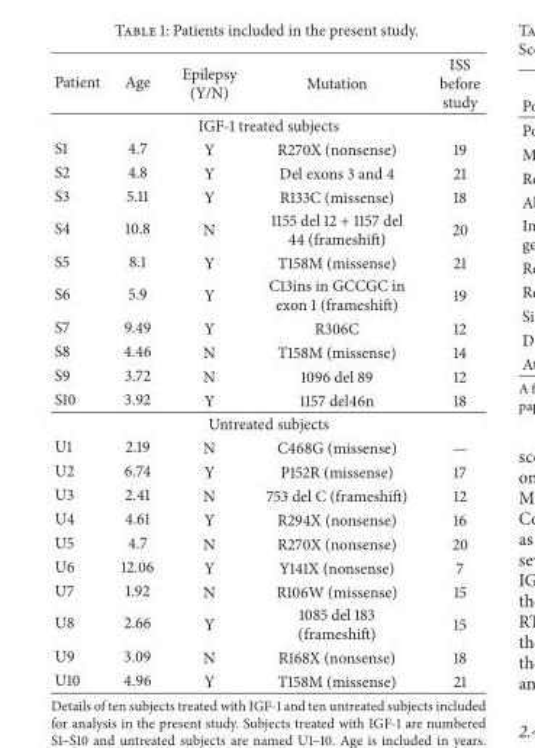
<table><thead><tr><td>Patient</td><td>Age</td><td>Epilepsy (Y/N)</td><td>Mutation</td><td>ISS before study</td></tr></thead><tbody><tr><td colspan="5">IGF-1 treated subjects</td></tr><tr><td>S1</td><td>4.7</td><td>Y</td><td>R270X (nonsense)</td><td>19</td></tr><tr><td>S2</td><td>4.8</td><td>Y</td><td>Del exons 3 and 4</td><td>21</td></tr><tr><td>S3</td><td>5.11</td><td>Y</td><td>R133C (missense)</td><td>18</td></tr><tr><td>S4</td><td>10.8</td><td>N</td><td>1155 del 12 + 1157 del 44 (frameshift)</td><td>20</td></tr><tr><td>S5</td><td>8.1</td><td>Y</td><td>T158M (missense)</td><td>21</td></tr><tr><td>S6</td><td>5.9</td><td>Y</td><td>C13ins in GCCGC in exon 1 (frameshift)</td><td>19</td></tr><tr><td>S7</td><td>9.49</td><td>Y</td><td>R306C</td><td>12</td></tr><tr><td>S8</td><td>4.46</td><td>N</td><td>T158M (missense)</td><td>14</td></tr><tr><td>S9</td><td>3.72</td><td>N</td><td>1096 del 89</td><td>12</td></tr><tr><td>S10</td><td>3.92</td><td>Y</td><td>1157 del46n</td><td>18</td></tr><tr><td colspan="5">Untreated subjects</td></tr><tr><td>U1</td><td>2.19</td><td>N</td><td>C468G (missense)</td><td>—</td></tr><tr><td>U2</td><td>6.74</td><td>Y</td><td>P152R (missense)</td><td>17</td></tr><tr><td>U3</td><td>2.41</td><td>N</td><td>753 del C (frameshift)</td><td>12</td></tr><tr><td>U4</td><td>4.61</td><td>Y</td><td>R294X (nonsense)</td><td>16</td></tr><tr><td>U5</td><td>4.7</td><td>N</td><td>R270X (nonsense)</td><td>20</td></tr><tr><td>U6</td><td>12.06</td><td>Y</td><td>Y141X (nonsense)</td><td>7</td></tr><tr><td>U7</td><td>1.92</td><td>N</td><td>R106W (missense)</td><td>15</td></tr><tr><td>U8</td><td>2.66</td><td>Y</td><td>1085 del 183 (frameshift)</td><td>15</td></tr><tr><td>U9</td><td>3.09</td><td>N</td><td>R168X (nonsense)</td><td>18</td></tr><tr><td>U10</td><td>4.96</td><td>Y</td><td>T158M (missense)</td><td>21</td></tr></tbody></table>